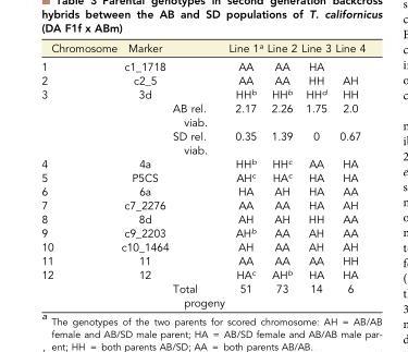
<table><thead><tr><td>Chromosome</td><td>Marker</td><td></td><td>Line 1<sup>a</sup></td><td>Line 2</td><td>Line 3</td><td>Line 4</td></tr></thead><tbody><tr><td>1</td><td>c1_1718</td><td></td><td>AA</td><td>AA</td><td>HA</td><td></td></tr><tr><td>2</td><td>c2_5</td><td></td><td>AA</td><td>AA</td><td>HH</td><td>AH</td></tr><tr><td rowspan="3">3</td><td>3d</td><td></td><td>HH<sup>b</sup></td><td>HH<sup>b</sup></td><td>HH<sup>d</sup></td><td>HH</td></tr><tr><td></td><td>AB rel. viab.</td><td>2.17</td><td>2.26</td><td>1.75</td><td>2.0</td></tr><tr><td></td><td>SD rel. viab.</td><td>0.35</td><td>1.39</td><td>0</td><td>0.67</td></tr><tr><td>4</td><td>4a</td><td></td><td>HH<sup>b</sup></td><td>HH<sup>c</sup></td><td>AA</td><td>HA</td></tr><tr><td>5</td><td>P5CS</td><td></td><td>AH<sup>c</sup></td><td>HA<sup>c</sup></td><td>HA</td><td>HA</td></tr><tr><td>6</td><td>6a</td><td></td><td>HA</td><td>AH</td><td>HA</td><td>AA</td></tr><tr><td>7</td><td>c7_2276</td><td></td><td>AA</td><td>AA</td><td>HA</td><td>AH</td></tr><tr><td>8</td><td>8d</td><td></td><td>AH</td><td>AH</td><td>HH</td><td>AA</td></tr><tr><td>9</td><td>c9_2203</td><td></td><td>AH<sup>b</sup></td><td>AA</td><td>AH</td><td>AA</td></tr><tr><td>10</td><td>c10_1464</td><td></td><td>AH</td><td>AA</td><td>AH</td><td>AH</td></tr><tr><td>11</td><td>11</td><td></td><td>AA</td><td>AA</td><td>AA</td><td>HH</td></tr><tr><td rowspan="2">12</td><td>12</td><td></td><td>HA<sup>c</sup></td><td>AH<sup>b</sup></td><td>HA</td><td>HA</td></tr><tr><td></td><td>Total progeny</td><td>51</td><td>73</td><td>14</td><td>6</td></tr></tbody></table>